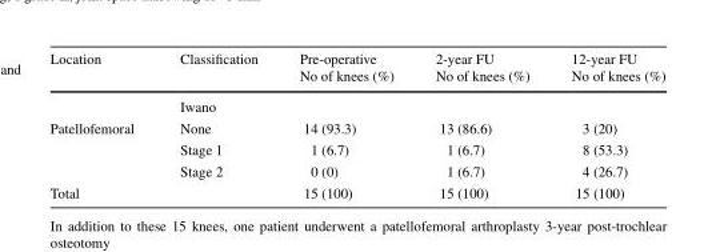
<table><thead><tr><td>Location</td><td>Classification</td><td>Pre-operative No of knees (%)</td><td>2-year FU No of knees (%)</td><td>12-year FU No of knees (%)</td></tr></thead><tbody><tr><td></td><td colspan="4">Iwano</td></tr><tr><td rowspan="3">Patellofemoral</td><td>None</td><td>14 (93.3)</td><td>13 (86.6)</td><td>3 (20)</td></tr><tr><td>Stage 1</td><td>1 (6.7)</td><td>1 (6.7)</td><td>8 (53.3)</td></tr><tr><td>Stage 2</td><td>0 (0)</td><td>1 (6.7)</td><td>4 (26.7)</td></tr><tr><td>Total</td><td></td><td>15 (100)</td><td>15 (100)</td><td>15 (100)</td></tr></tbody></table>